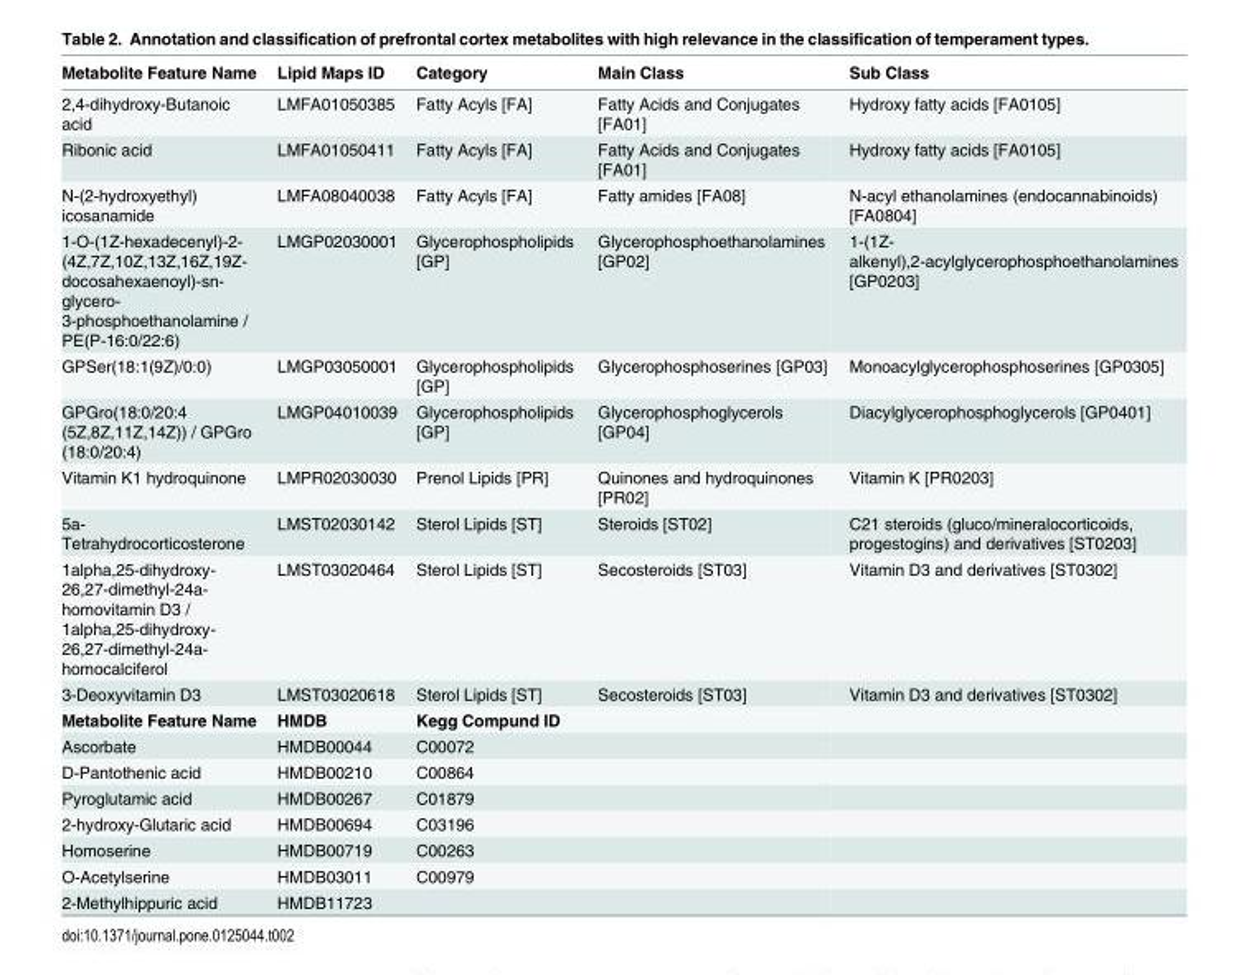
<table><thead><tr><td>Metabolite Feature Name</td><td>Lipid Maps ID</td><td>Category</td><td>Main Class</td><td>Sub Class</td></tr></thead><tbody><tr><td>2,4-dihydroxy-Butanoic acid</td><td>LMFA01050385</td><td>Fatty Acyls [FA]</td><td>Fatty Acids and Conjugates [FA01]</td><td>Hydroxy fatty acids [FA0105]</td></tr><tr><td>Ribonic acid</td><td>LMFA01050411</td><td>Fatty Acyls [FA]</td><td>Fatty Acids and Conjugates [FA01]</td><td>Hydroxy fatty acids [FA0105]</td></tr><tr><td>N-(2-hydroxyethyl) icosanamide</td><td>LMFA08040038</td><td>Fatty Acyls [FA]</td><td>Fatty amides [FA08]</td><td>N-acyl ethanolamines (endocannabinoids) [FA0804]</td></tr><tr><td>1-O-(1Z-hexadecenyl)-2- (4Z,7Z,10Z,13Z,16Z,19Z- docosahexaenoyl)-sn- glycero- 3-phosphoethanolamine / PE(P-16:0/22:6)</td><td>LMGP02030001</td><td>Glycerophospholipids [GP]</td><td>Glycerophosphoethanolamines [GP02]</td><td>1-(1Z- alkenyl),2-acylglycerophosphoethanolamines [GP0203]</td></tr><tr><td>GPSer(18:1(9Z)/0:0)</td><td>LMGP03050001</td><td>Glycerophospholipids [GP]</td><td>Glycerophosphoserines [GP03]</td><td>Monoacylglycerophosphoserines [GP0305]</td></tr><tr><td>GPGro(18:0/20:4 (5Z,8Z,11Z,14Z)) / GPGro (18:0/20:4)</td><td>LMGP04010039</td><td>Glycerophospholipids [GP]</td><td>Glycerophosphoglycerols [GP04]</td><td>Diacylglycerophosphoglycerols [GP0401]</td></tr><tr><td>Vitamin K1 hydroquinone</td><td>LMPR02030030</td><td>Prenol Lipids [PR]</td><td>Quinones and hydroquinones [PR02]</td><td>Vitamin K [PR0203]</td></tr><tr><td>5a- Tetrahydrocorticosterone</td><td>LMST02030142</td><td>Sterol Lipids [ST]</td><td>Steroids [ST02]</td><td>C21 steroids (gluco/mineralocorticoids, progestogins) and derivatives [ST0203]</td></tr><tr><td>1alpha,25-dihydroxy- 26,27-dimethyl-24a- homovitamin D3 / 1alpha,25-dihydroxy- 26,27-dimethyl-24a- homocalciferol</td><td>LMST03020464</td><td>Sterol Lipids [ST]</td><td>Secosteroids [ST03]</td><td>Vitamin D3 and derivatives [ST0302]</td></tr><tr><td>3-Deoxyvitamin D3</td><td>LMST03020618</td><td>Sterol Lipids [ST]</td><td>Secosteroids [ST03]</td><td>Vitamin D3 and derivatives [ST0302]</td></tr><tr><td>Metabolite Feature Name</td><td>HMDB</td><td>Kegg Compund ID</td><td></td><td></td></tr><tr><td>Ascorbate</td><td>HMDB00044</td><td>C00072</td><td></td><td></td></tr><tr><td>D-Pantothenic acid</td><td>HMDB00210</td><td>C00864</td><td></td><td></td></tr><tr><td>Pyroglutamic acid</td><td>HMDB00267</td><td>C01879</td><td></td><td></td></tr><tr><td>2-hydroxy-Glutaric acid</td><td>HMDB00694</td><td>C03196</td><td></td><td></td></tr><tr><td>Homoserine</td><td>HMDB00719</td><td>C00263</td><td></td><td></td></tr><tr><td>O-Acetylserine</td><td>HMDB03011</td><td>C00979</td><td></td><td></td></tr><tr><td>2-Methylhippuric acid</td><td>HMDB11723</td><td></td><td></td><td></td></tr></tbody></table>